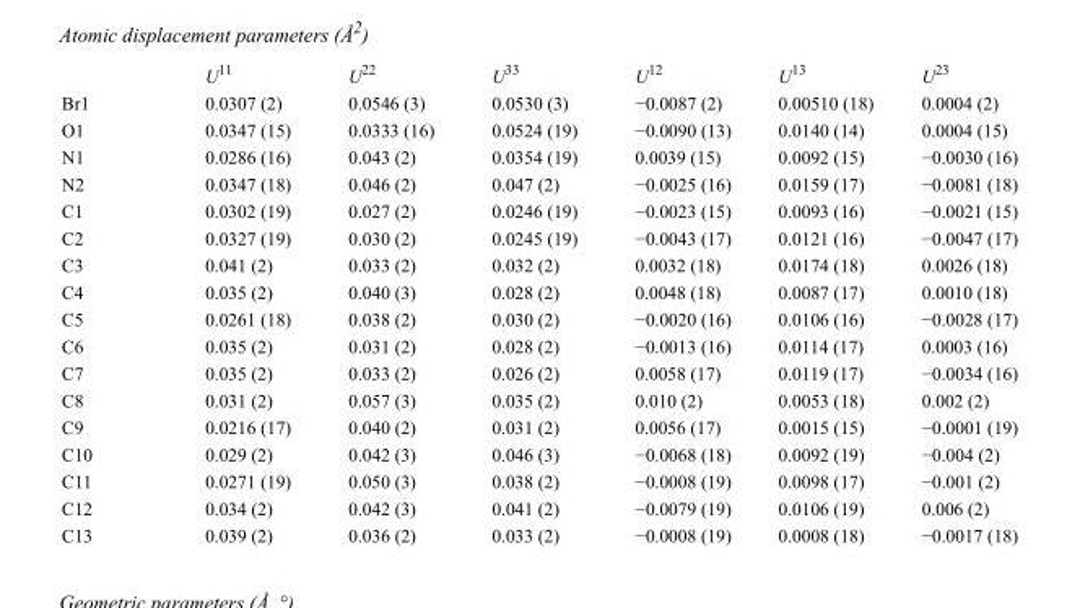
<table><thead><tr><td></td><td>U<sup>11</sup></td><td>U<sup>22</sup></td><td>U<sup>33</sup></td><td>U<sup>12</sup></td><td>U<sup>13</sup></td><td>U<sup>23</sup></td></tr></thead><tbody><tr><td>Br1</td><td>0.0307 (2)</td><td>0.0546 (3)</td><td>0.0530 (3)</td><td>−0.0087 (2)</td><td>0.00510 (18)</td><td>0.0004 (2)</td></tr><tr><td>O1</td><td>0.0347 (15)</td><td>0.0333 (16)</td><td>0.0524 (19)</td><td>−0.0090 (13)</td><td>0.0140 (14)</td><td>0.0004 (15)</td></tr><tr><td>N1</td><td>0.0286 (16)</td><td>0.043 (2)</td><td>0.0354 (19)</td><td>0.0039 (15)</td><td>0.0092 (15)</td><td>−0.0030 (16)</td></tr><tr><td>N2</td><td>0.0347 (18)</td><td>0.046 (2)</td><td>0.047 (2)</td><td>−0.0025 (16)</td><td>0.0159 (17)</td><td>−0.0081 (18)</td></tr><tr><td>C1</td><td>0.0302 (19)</td><td>0.027 (2)</td><td>0.0246 (19)</td><td>−0.0023 (15)</td><td>0.0093 (16)</td><td>−0.0021 (15)</td></tr><tr><td>C2</td><td>0.0327 (19)</td><td>0.030 (2)</td><td>0.0245 (19)</td><td>−0.0043 (17)</td><td>0.0121 (16)</td><td>−0.0047 (17)</td></tr><tr><td>C3</td><td>0.041 (2)</td><td>0.033 (2)</td><td>0.032 (2)</td><td>0.0032 (18)</td><td>0.0174 (18)</td><td>0.0026 (18)</td></tr><tr><td>C4</td><td>0.035 (2)</td><td>0.040 (3)</td><td>0.028 (2)</td><td>0.0048 (18)</td><td>0.0087 (17)</td><td>0.0010 (18)</td></tr><tr><td>C5</td><td>0.0261 (18)</td><td>0.038 (2)</td><td>0.030 (2)</td><td>−0.0020 (16)</td><td>0.0106 (16)</td><td>−0.0028 (17)</td></tr><tr><td>C6</td><td>0.035 (2)</td><td>0.031 (2)</td><td>0.028 (2)</td><td>−0.0013 (16)</td><td>0.0114 (17)</td><td>0.0003 (16)</td></tr><tr><td>C7</td><td>0.035 (2)</td><td>0.033 (2)</td><td>0.026 (2)</td><td>0.0058 (17)</td><td>0.0119 (17)</td><td>−0.0034 (16)</td></tr><tr><td>C8</td><td>0.031 (2)</td><td>0.057 (3)</td><td>0.035 (2)</td><td>0.010 (2)</td><td>0.0053 (18)</td><td>0.002 (2)</td></tr><tr><td>C9</td><td>0.0216 (17)</td><td>0.040 (2)</td><td>0.031 (2)</td><td>0.0056 (17)</td><td>0.0015 (15)</td><td>−0.0001 (19)</td></tr><tr><td>C10</td><td>0.029 (2)</td><td>0.042 (3)</td><td>0.046 (3)</td><td>−0.0068 (18)</td><td>0.0092 (19)</td><td>−0.004 (2)</td></tr><tr><td>C11</td><td>0.0271 (19)</td><td>0.050 (3)</td><td>0.038 (2)</td><td>−0.0008 (19)</td><td>0.0098 (17)</td><td>−0.001 (2)</td></tr><tr><td>C12</td><td>0.034 (2)</td><td>0.042 (3)</td><td>0.041 (2)</td><td>−0.0079 (19)</td><td>0.0106 (19)</td><td>0.006 (2)</td></tr><tr><td>C13</td><td>0.039 (2)</td><td>0.036 (2)</td><td>0.033 (2)</td><td>−0.0008 (19)</td><td>0.0008 (18)</td><td>−0.0017 (18)</td></tr></tbody></table>